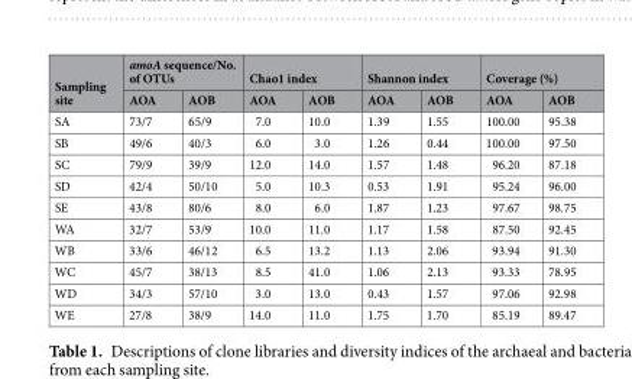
<table><thead><tr><td rowspan="2">Sampling site</td><td colspan="2">amoA sequence/No. of OTUs</td><td colspan="2">Chao1 index</td><td colspan="2">Shannon index</td><td colspan="2">Coverage (%)</td></tr><tr><td>AOA</td><td>AOB</td><td>AOA</td><td>AOB</td><td>AOA</td><td>AOB</td><td>AOA</td><td>AOB</td></tr></thead><tbody><tr><td>SA</td><td>73/7</td><td>65/9</td><td>7.0</td><td>10.0</td><td>1.39</td><td>1.55</td><td>100.00</td><td>95.38</td></tr><tr><td>SB</td><td>49/6</td><td>40/3</td><td>6.0</td><td>3.0</td><td>1.26</td><td>0.44</td><td>100.00</td><td>97.50</td></tr><tr><td>SC</td><td>79/9</td><td>39/9</td><td>12.0</td><td>14.0</td><td>1.57</td><td>1.48</td><td>96.20</td><td>87.18</td></tr><tr><td>SD</td><td>42/4</td><td>50/10</td><td>5.0</td><td>10.3</td><td>0.53</td><td>1.91</td><td>95.24</td><td>96.00</td></tr><tr><td>SE</td><td>43/8</td><td>80/6</td><td>8.0</td><td>6.0</td><td>1.87</td><td>1.23</td><td>97.67</td><td>98.75</td></tr><tr><td>WA</td><td>32/7</td><td>53/9</td><td>10.0</td><td>11.0</td><td>1.17</td><td>1.58</td><td>87.50</td><td>92.45</td></tr><tr><td>WB</td><td>33/6</td><td>46/12</td><td>6.5</td><td>13.2</td><td>1.13</td><td>2.06</td><td>93.94</td><td>91.30</td></tr><tr><td>WC</td><td>45/7</td><td>38/13</td><td>8.5</td><td>41.0</td><td>1.06</td><td>2.13</td><td>93.33</td><td>78.95</td></tr><tr><td>WD</td><td>34/3</td><td>57/10</td><td>3.0</td><td>13.0</td><td>0.43</td><td>1.57</td><td>97.06</td><td>92.98</td></tr><tr><td>WE</td><td>27/8</td><td>38/9</td><td>14.0</td><td>11.0</td><td>1.75</td><td>1.70</td><td>85.19</td><td>89.47</td></tr></tbody></table>